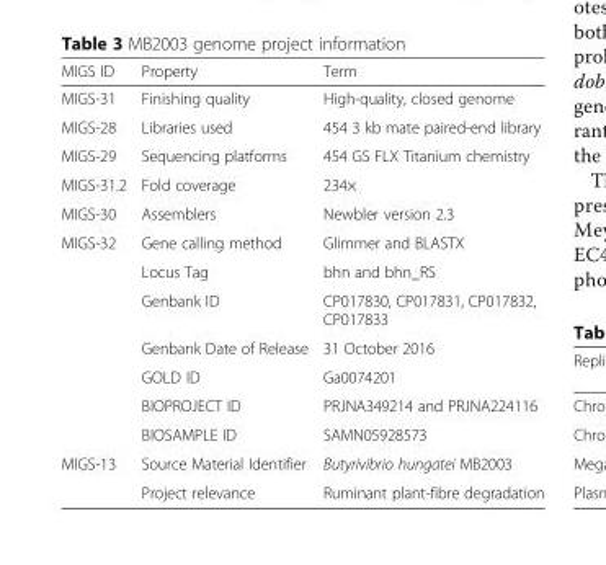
<table><thead><tr><td>MIGS ID</td><td>Property</td><td>Term</td></tr></thead><tbody><tr><td>MIGS-31</td><td>Finishing quality</td><td>High-quality, closed genome</td></tr><tr><td>MIGS-28</td><td>Libraries used</td><td>454 3 kb mate paired-end library</td></tr><tr><td>MIGS-29</td><td>Sequencing platforms</td><td>454 GS FLX Titanium chemistry</td></tr><tr><td>MIGS-31.2</td><td>Fold coverage</td><td>234×</td></tr><tr><td>MIGS-30</td><td>Assemblers</td><td>Newbler version 2.3</td></tr><tr><td rowspan="7">MIGS-32</td><td>Gene calling method</td><td>Glimmer and BLASTX</td></tr><tr><td>Locus Tag</td><td>bhn and bhn_RS</td></tr><tr><td>Genbank ID</td><td>CP017830, CP017831, CP017832, CP017833</td></tr><tr><td>Genbank Date of Release</td><td>31 October 2016</td></tr><tr><td>GOLD ID</td><td>Ga0074201</td></tr><tr><td>BIOPROJECT ID</td><td>PRJNA349214 and PRJNA224116</td></tr><tr><td>BIOSAMPLE ID</td><td>SAMN05928573</td></tr><tr><td rowspan="2">MIGS-13</td><td>Source Material Identifier</td><td>Butyrivibrio hungatei MB2003</td></tr><tr><td>Project relevance</td><td>Ruminant plant-fibre degradation</td></tr></tbody></table>